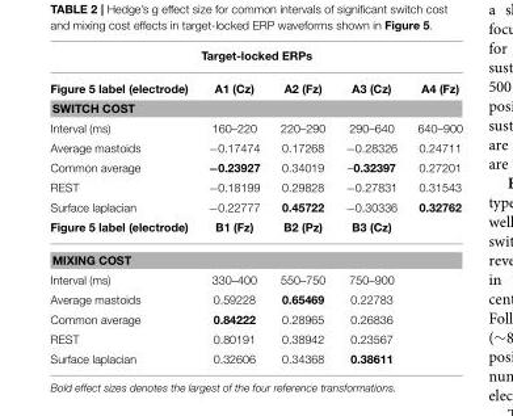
<table><thead><tr><td colspan="5">Target-locked ERPs</td></tr><tr><td>Figure 5 label (electrode)</td><td>A1 (Cz)</td><td>A2 (Fz)</td><td>A3 (Cz)</td><td>A4 (Fz)</td></tr></thead><tbody><tr><td colspan="5">SWITCH COST</td></tr><tr><td>Interval (ms)</td><td>160–220</td><td>220–290</td><td>290–640</td><td>640–900</td></tr><tr><td>Average mastoids</td><td>−0.17474</td><td>0.17268</td><td>−0.28326</td><td>0.24711</td></tr><tr><td>Common average</td><td>−0.23927</td><td>0.34019</td><td>–0.32397</td><td>0.27201</td></tr><tr><td>REST</td><td>−0.18199</td><td>0.29828</td><td>−0.27831</td><td>0.31543</td></tr><tr><td>Surface laplacian</td><td>−0.22777</td><td>0.45722</td><td>−0.30336</td><td>0.32762</td></tr><tr><td>Figure 5 label (electrode)</td><td>B1 (Fz)</td><td>B2 (Pz)</td><td>B3 (Cz)</td><td></td></tr><tr><td colspan="5">MIXING COST</td></tr><tr><td>Interval (ms)</td><td>330–400</td><td>550–750</td><td>750–900</td><td></td></tr><tr><td>Average mastoids</td><td>0.59228</td><td>0.65469</td><td>0.22783</td><td></td></tr><tr><td>Common average</td><td>0.84222</td><td>0.28965</td><td>0.26836</td><td></td></tr><tr><td>REST</td><td>0.80191</td><td>0.38942</td><td>0.23567</td><td></td></tr><tr><td>Surface laplacian</td><td>0.32606</td><td>0.34368</td><td>0.38611</td><td></td></tr></tbody></table>